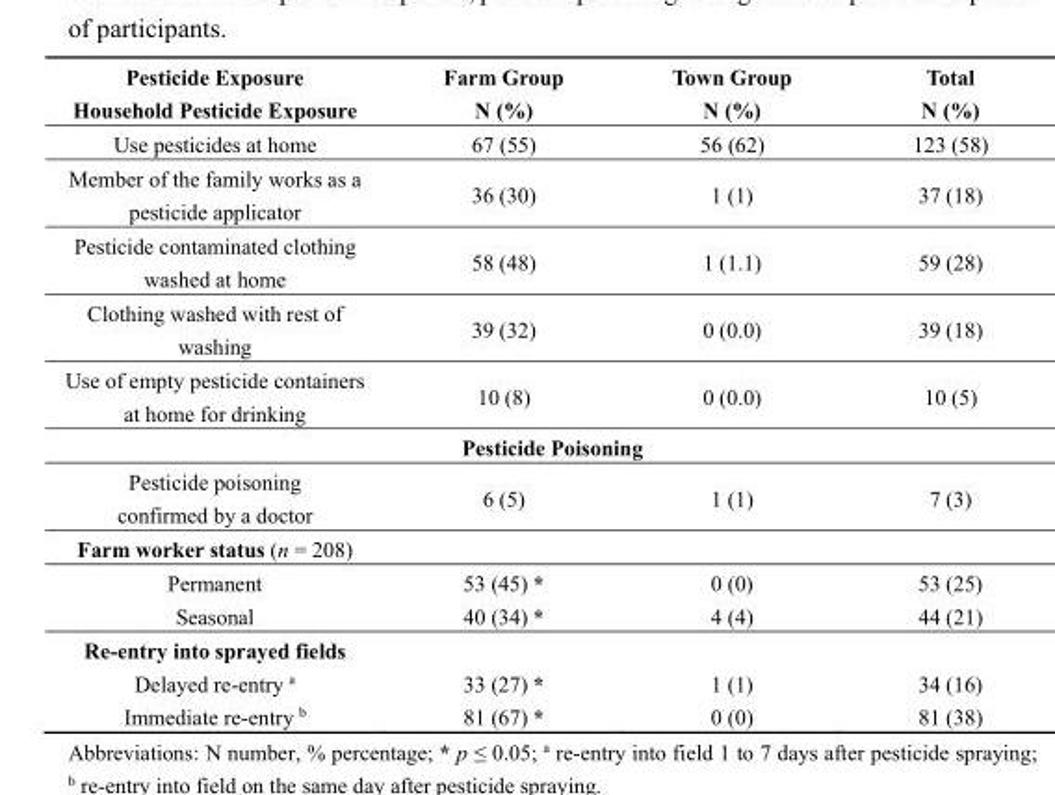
<table><thead><tr><td>Pesticide Exposure Household Pesticide Exposure</td><td>Farm Group N (%)</td><td>Town Group N (%)</td><td>Total N (%)</td></tr></thead><tbody><tr><td>Use pesticides at home</td><td>67 (55)</td><td>56 (62)</td><td>123 (58)</td></tr><tr><td>Member of the family works as a pesticide applicator</td><td>36 (30)</td><td>1 (1)</td><td>37 (18)</td></tr><tr><td>Pesticide contaminated clothing washed at home</td><td>58 (48)</td><td>1 (1.1)</td><td>59 (28)</td></tr><tr><td>Clothing washed with rest of washing</td><td>39 (32)</td><td>0 (0.0)</td><td>39 (18)</td></tr><tr><td>Use of empty pesticide containers at home for drinking</td><td>10 (8)</td><td>0 (0.0)</td><td>10 (5)</td></tr><tr><td colspan="4">Pesticide Poisoning</td></tr><tr><td>Pesticide poisoning confirmed by a doctor</td><td>6 (5)</td><td>1 (1)</td><td>7 (3)</td></tr><tr><td colspan="4">Farm worker status (n = 208)</td></tr><tr><td>Permanent Seasonal</td><td>53 (45) * 40 (34) *</td><td>0 (0) 4 (4)</td><td>53 (25) 44 (21)</td></tr><tr><td>Re-entry into sprayed fields Delayed re-entry <sup>a</sup> Immediate re-entry <sup>b</sup></td><td>33 (27) * 81 (67) *</td><td>1 (1) 0 (0)</td><td>34 (16) 81 (38)</td></tr></tbody></table>